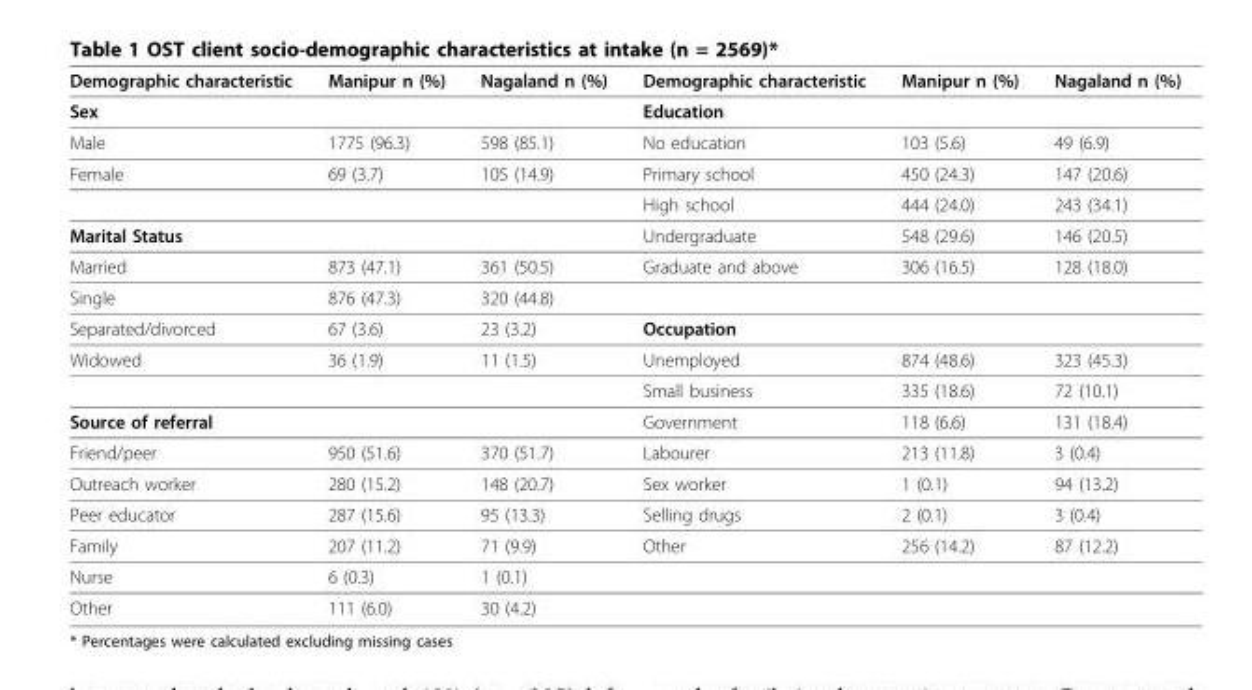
<table><thead><tr><td>Demographic characteristic</td><td>Manipur n (%)</td><td>Nagaland n (%)</td><td>Demographic characteristic</td><td>Manipur n (%)</td><td>Nagaland n (%)</td></tr></thead><tbody><tr><td>Sex</td><td></td><td></td><td>Education</td><td></td><td></td></tr><tr><td>Male</td><td>1775 (96.3)</td><td>598 (85.1)</td><td>No education</td><td>103 (5.6)</td><td>49 (6.9)</td></tr><tr><td rowspan="2">Female</td><td>69 (3.7)</td><td>105 (14.9)</td><td>Primary school</td><td>450 (24.3)</td><td>147 (20.6)</td></tr><tr><td></td><td></td><td>High school</td><td>444 (24.0)</td><td>243 (34.1)</td></tr><tr><td>Marital Status</td><td></td><td></td><td>Undergraduate</td><td>548 (29.6)</td><td>146 (20.5)</td></tr><tr><td>Married</td><td>873 (47.1)</td><td>361 (50.5)</td><td>Graduate and above</td><td>306 (16.5)</td><td>128 (18.0)</td></tr><tr><td>Single</td><td>876 (47.3)</td><td>320 (44.8)</td><td></td><td></td><td></td></tr><tr><td>Separated/divorced</td><td>67 (3.6)</td><td>23 (3.2)</td><td>Occupation</td><td></td><td></td></tr><tr><td rowspan="2">Widowed</td><td>36 (1.9)</td><td>11 (1.5)</td><td>Unemployed</td><td>874 (48.6)</td><td>323 (45.3)</td></tr><tr><td></td><td></td><td>Small business</td><td>335 (18.6)</td><td>72 (10.1)</td></tr><tr><td>Source of referral</td><td></td><td></td><td>Government</td><td>118 (6.6)</td><td>131 (18.4)</td></tr><tr><td>Friend/peer</td><td>950 (51.6)</td><td>370 (51.7)</td><td>Labourer</td><td>213 (11.8)</td><td>3 (0.4)</td></tr><tr><td>Outreach worker</td><td>280 (15.2)</td><td>148 (20.7)</td><td>Sex worker</td><td>1 (0.1)</td><td>94 (13.2)</td></tr><tr><td>Peer educator</td><td>287 (15.6)</td><td>95 (13.3)</td><td>Selling drugs</td><td>2 (0.1)</td><td>3 (0.4)</td></tr><tr><td>Family</td><td>207 (11.2)</td><td>71 (9.9)</td><td>Other</td><td>256 (14.2)</td><td>87 (12.2)</td></tr><tr><td>Nurse</td><td>6 (0.3)</td><td>1 (0.1)</td><td></td><td></td><td></td></tr><tr><td>Other</td><td>111 (6.0)</td><td>30 (4.2)</td><td></td><td></td><td></td></tr></tbody></table>